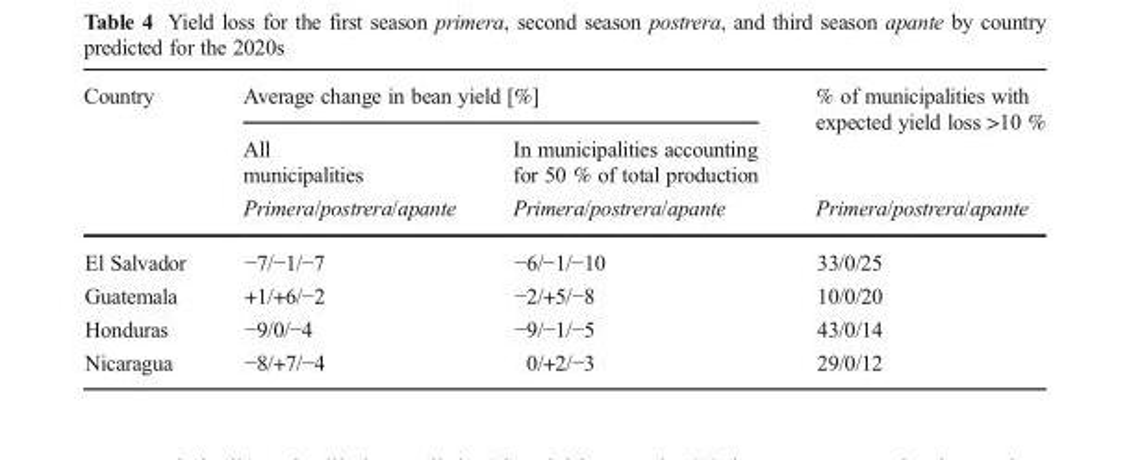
<table><thead><tr><td rowspan="3">Country</td><td colspan="2">Average change in bean yield [%]</td><td rowspan="3">% of municipalities with expected yield loss &gt;10 % Primera/postrera/apante</td></tr><tr><td rowspan="2">All municipalities Primera/postrera/apante</td><td rowspan="2">In municipalities accounting for 50 % of total production Primera/postrera/apante</td></tr><tr></tr></thead><tbody><tr><td>El Salvador</td><td>−7/−1/−7</td><td>−6/−1/−10</td><td>33/0/25</td></tr><tr><td>Guatemala</td><td>+1/+6/−2</td><td>−2/+5/−8</td><td>10/0/20</td></tr><tr><td>Honduras</td><td>−9/0/−4</td><td>−9/−1/−5</td><td>43/0/14</td></tr><tr><td>Nicaragua</td><td>−8/+7/−4</td><td>0/+2/−3</td><td>29/0/12</td></tr></tbody></table>